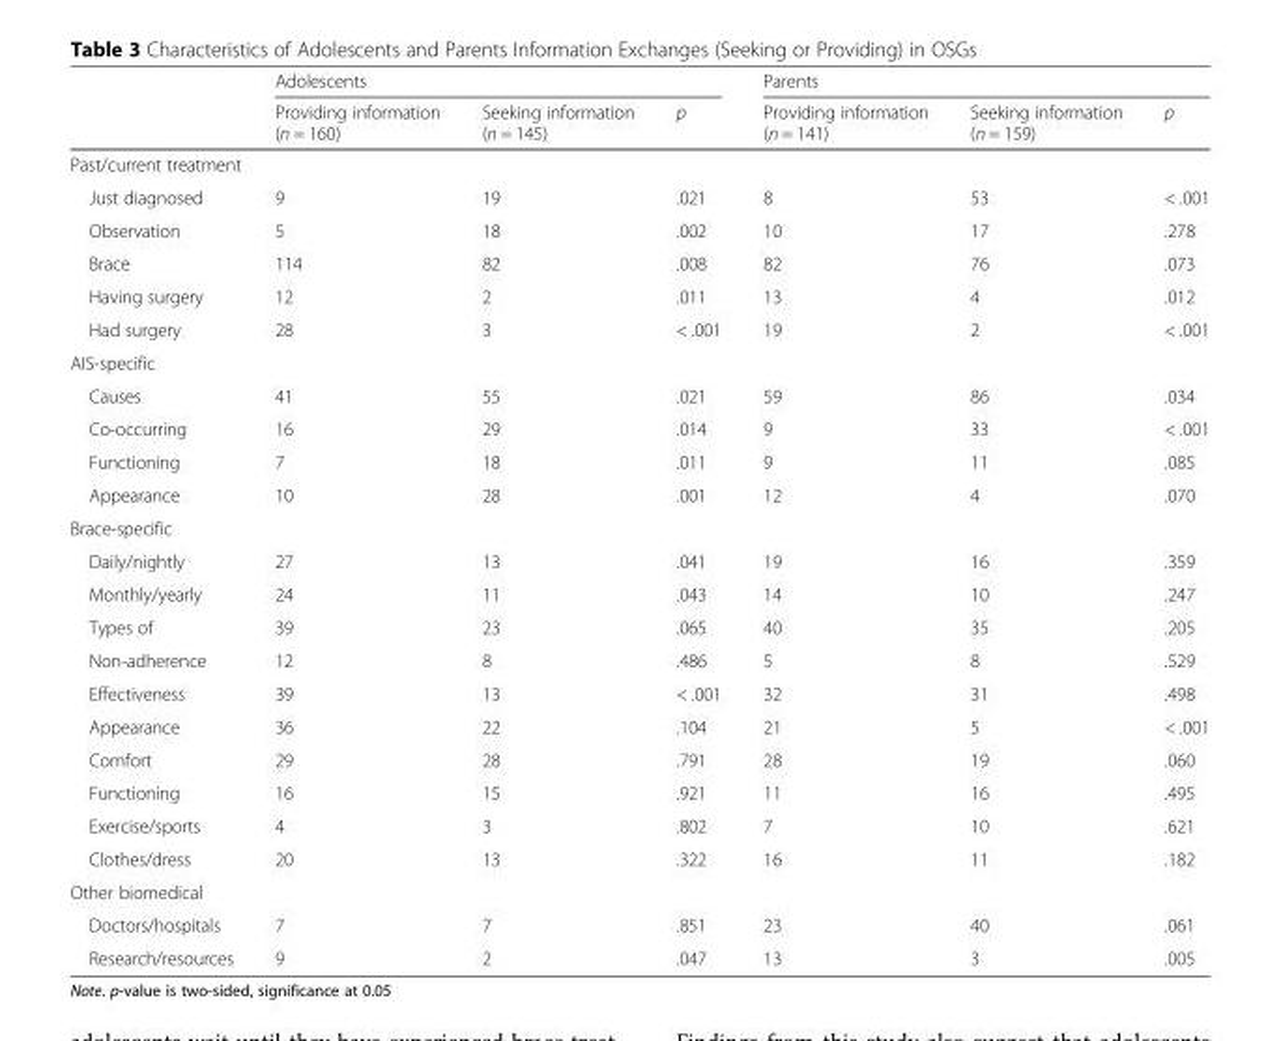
<table><thead><tr><td rowspan="2"></td><td colspan="3">Adolescents</td><td colspan="3">Parents</td></tr><tr><td>Providing information (n = 160)</td><td>Seeking information (n = 145)</td><td>p</td><td>Providing information (n = 141)</td><td>Seeking information (n = 159)</td><td>p</td></tr></thead><tbody><tr><td colspan="7">Past/current treatment</td></tr><tr><td>Just diagnosed</td><td>9</td><td>19</td><td>.021</td><td>8</td><td>53</td><td>&lt; .001</td></tr><tr><td>Observation</td><td>5</td><td>18</td><td>.002</td><td>10</td><td>17</td><td>.278</td></tr><tr><td>Brace</td><td>114</td><td>82</td><td>.008</td><td>82</td><td>76</td><td>.073</td></tr><tr><td>Having surgery</td><td>12</td><td>2</td><td>.011</td><td>13</td><td>4</td><td>.012</td></tr><tr><td>Had surgery</td><td>28</td><td>3</td><td>&lt; .001</td><td>19</td><td>2</td><td>&lt; .001</td></tr><tr><td colspan="7">AIS-specific</td></tr><tr><td>Causes</td><td>41</td><td>55</td><td>.021</td><td>59</td><td>86</td><td>.034</td></tr><tr><td>Co-occurring</td><td>16</td><td>29</td><td>.014</td><td>9</td><td>33</td><td>&lt; .001</td></tr><tr><td>Functioning</td><td>7</td><td>18</td><td>.011</td><td>9</td><td>11</td><td>.085</td></tr><tr><td>Appearance</td><td>10</td><td>28</td><td>.001</td><td>12</td><td>4</td><td>.070</td></tr><tr><td colspan="7">Brace-specific</td></tr><tr><td>Daily/nightly</td><td>27</td><td>13</td><td>.041</td><td>19</td><td>16</td><td>.359</td></tr><tr><td>Monthly/yearly</td><td>24</td><td>11</td><td>.043</td><td>14</td><td>10</td><td>.247</td></tr><tr><td>Types of</td><td>39</td><td>23</td><td>.065</td><td>40</td><td>35</td><td>.205</td></tr><tr><td>Non-adherence</td><td>12</td><td>8</td><td>.486</td><td>5</td><td>8</td><td>.529</td></tr><tr><td>Effectiveness</td><td>39</td><td>13</td><td>&lt; .001</td><td>32</td><td>31</td><td>.498</td></tr><tr><td>Appearance</td><td>36</td><td>22</td><td>.104</td><td>21</td><td>5</td><td>&lt; .001</td></tr><tr><td>Comfort</td><td>29</td><td>28</td><td>.791</td><td>28</td><td>19</td><td>.060</td></tr><tr><td>Functioning</td><td>16</td><td>15</td><td>.921</td><td>11</td><td>16</td><td>.495</td></tr><tr><td>Exercise/sports</td><td>4</td><td>3</td><td>.802</td><td>7</td><td>10</td><td>.621</td></tr><tr><td>Clothes/dress</td><td>20</td><td>13</td><td>.322</td><td>16</td><td>11</td><td>.182</td></tr><tr><td colspan="7">Other biomedical</td></tr><tr><td>Doctors/hospitals</td><td>7</td><td>7</td><td>.851</td><td>23</td><td>40</td><td>.061</td></tr><tr><td>Research/resources</td><td>9</td><td>2</td><td>.047</td><td>13</td><td>3</td><td>.005</td></tr></tbody></table>